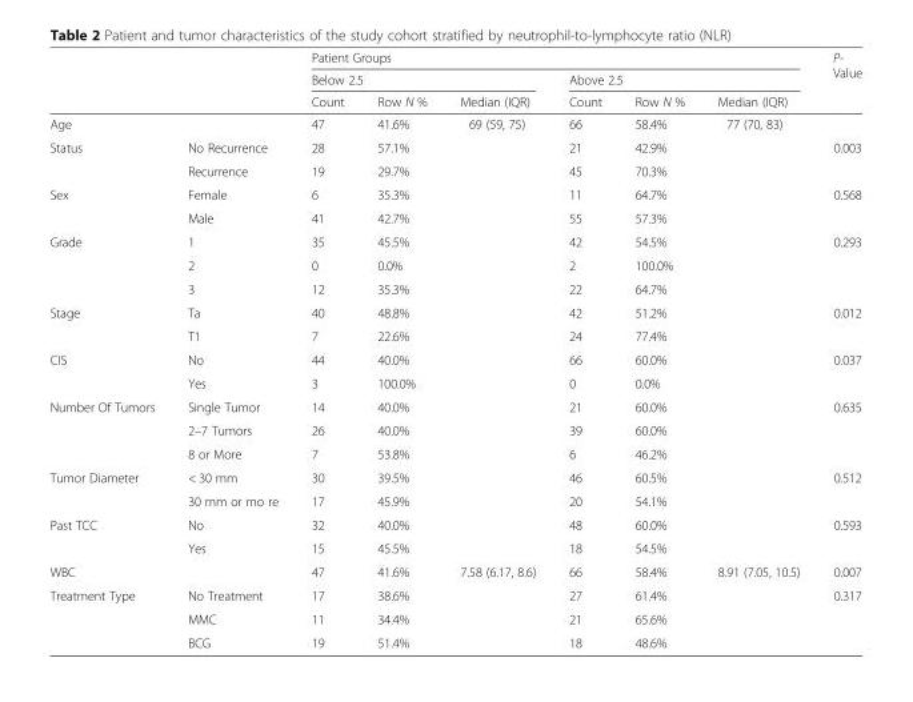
<table><thead><tr><td rowspan="3"></td><td rowspan="3"></td><td colspan="6">Patient Groups</td><td rowspan="3">P- Value</td></tr><tr><td colspan="3">Below 2.5</td><td colspan="3">Above 2.5</td></tr><tr><td>Count</td><td>Row N %</td><td>Median (IQR)</td><td>Count</td><td>Row N %</td><td>Median (IQR)</td></tr></thead><tbody><tr><td>Age</td><td></td><td>47</td><td>41.6%</td><td>69 (59, 75)</td><td>66</td><td>58.4%</td><td>77 (70, 83)</td><td></td></tr><tr><td rowspan="2">Status</td><td>No Recurrence</td><td>28</td><td>57.1%</td><td></td><td>21</td><td>42.9%</td><td></td><td>0.003</td></tr><tr><td>Recurrence</td><td>19</td><td>29.7%</td><td></td><td>45</td><td>70.3%</td><td></td><td></td></tr><tr><td rowspan="2">Sex</td><td>Female</td><td>6</td><td>35.3%</td><td></td><td>11</td><td>64.7%</td><td></td><td>0.568</td></tr><tr><td>Male</td><td>41</td><td>42.7%</td><td></td><td>55</td><td>57.3%</td><td></td><td></td></tr><tr><td rowspan="3">Grade</td><td>1</td><td>35</td><td>45.5%</td><td></td><td>42</td><td>54.5%</td><td></td><td>0.293</td></tr><tr><td>2</td><td>0</td><td>0.0%</td><td></td><td>2</td><td>100.0%</td><td></td><td></td></tr><tr><td>3</td><td>12</td><td>35.3%</td><td></td><td>22</td><td>64.7%</td><td></td><td></td></tr><tr><td rowspan="2">Stage</td><td>Ta</td><td>40</td><td>48.8%</td><td></td><td>42</td><td>51.2%</td><td></td><td>0.012</td></tr><tr><td>T1</td><td>7</td><td>22.6%</td><td></td><td>24</td><td>77.4%</td><td></td><td></td></tr><tr><td rowspan="2">CIS</td><td>No</td><td>44</td><td>40.0%</td><td></td><td>66</td><td>60.0%</td><td></td><td>0.037</td></tr><tr><td>Yes</td><td>3</td><td>100.0%</td><td></td><td>0</td><td>0.0%</td><td></td><td></td></tr><tr><td rowspan="3">Number Of Tumors</td><td>Single Tumor</td><td>14</td><td>40.0%</td><td></td><td>21</td><td>60.0%</td><td></td><td>0.635</td></tr><tr><td>2–7 Tumors</td><td>26</td><td>40.0%</td><td></td><td>39</td><td>60.0%</td><td></td><td></td></tr><tr><td>8 or More</td><td>7</td><td>53.8%</td><td></td><td>6</td><td>46.2%</td><td></td><td></td></tr><tr><td rowspan="2">Tumor Diameter</td><td>&lt; 30 mm</td><td>30</td><td>39.5%</td><td></td><td>46</td><td>60.5%</td><td></td><td>0.512</td></tr><tr><td>30 mm or mo re</td><td>17</td><td>45.9%</td><td></td><td>20</td><td>54.1%</td><td></td><td></td></tr><tr><td rowspan="2">Past TCC</td><td>No</td><td>32</td><td>40.0%</td><td></td><td>48</td><td>60.0%</td><td></td><td>0.593</td></tr><tr><td>Yes</td><td>15</td><td>45.5%</td><td></td><td>18</td><td>54.5%</td><td></td><td></td></tr><tr><td>WBC</td><td></td><td>47</td><td>41.6%</td><td>7.58 (6.17, 8.6)</td><td>66</td><td>58.4%</td><td>8.91 (7.05, 10.5)</td><td>0.007</td></tr><tr><td rowspan="3">Treatment Type</td><td>No Treatment</td><td>17</td><td>38.6%</td><td></td><td>27</td><td>61.4%</td><td></td><td>0.317</td></tr><tr><td>MMC</td><td>11</td><td>34.4%</td><td></td><td>21</td><td>65.6%</td><td></td><td></td></tr><tr><td>BCG</td><td>19</td><td>51.4%</td><td></td><td>18</td><td>48.6%</td><td></td><td></td></tr></tbody></table>